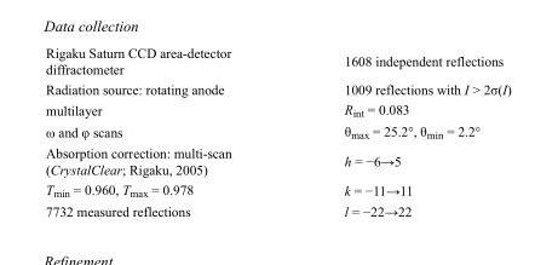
<table><tbody><tr><td>Rigaku Saturn CCD area-detector diffractometer</td><td>1608 independent reflections</td></tr><tr><td>Radiation source: rotating anode</td><td>1009 reflections with I &gt; 2σ(I)</td></tr><tr><td>multilayer</td><td>R<sub>int</sub> = 0.083</td></tr><tr><td>ω and φ scans</td><td>θ<sub>max</sub> = 25.2°, θ<sub>min</sub> = 2.2°</td></tr><tr><td>Absorption correction: multi-scan (CrystalClear; Rigaku, 2005)</td><td>h = −6→5</td></tr><tr><td>T<sub>min</sub> = 0.960, T<sub>max</sub> = 0.978</td><td>k = −11→11</td></tr><tr><td>7732 measured reflections</td><td>l = −22→22</td></tr></tbody></table>